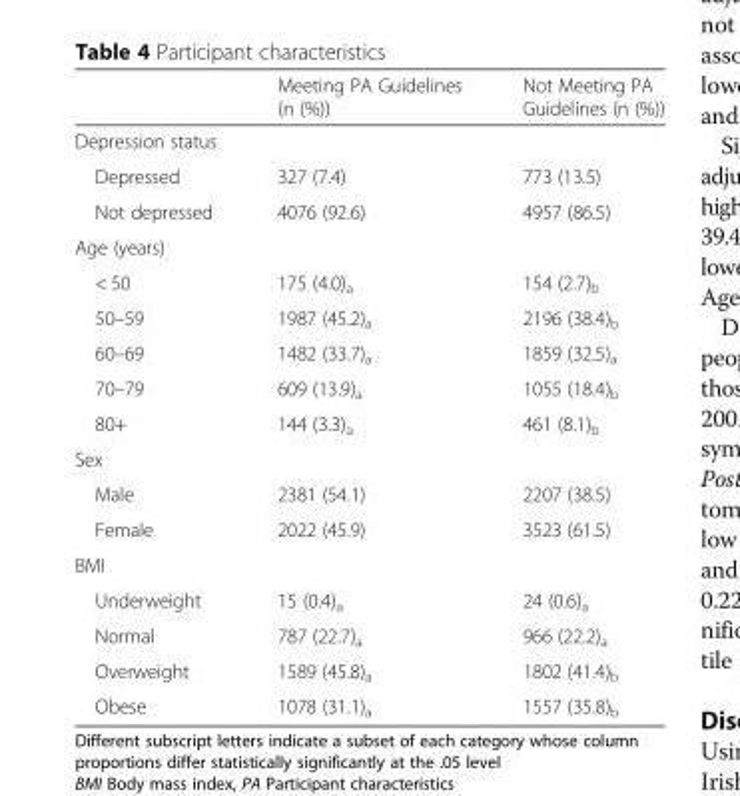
<table><thead><tr><td></td><td>Meeting PA Guidelines (n (%))</td><td>Not Meeting PA Guidelines (n (%))</td></tr></thead><tbody><tr><td colspan="3">Depression status</td></tr><tr><td>Depressed</td><td>327 (7.4)</td><td>773 (13.5)</td></tr><tr><td>Not depressed</td><td>4076 (92.6)</td><td>4957 (86.5)</td></tr><tr><td colspan="3">Age (years)</td></tr><tr><td>&lt; 50</td><td>175 (4.0)<sub>a</sub></td><td>154 (2.7)<sub>b</sub></td></tr><tr><td>50–59</td><td>1987 (45.2)<sub>a</sub></td><td>2196 (38.4)<sub>b</sub></td></tr><tr><td>60–69</td><td>1482 (33.7)<sub>a</sub></td><td>1859 (32.5)<sub>a</sub></td></tr><tr><td>70–79</td><td>609 (13.9)<sub>a</sub></td><td>1055 (18.4)<sub>b</sub></td></tr><tr><td>80+</td><td>144 (3.3)<sub>a</sub></td><td>461 (8.1)<sub>b</sub></td></tr><tr><td colspan="3">Sex</td></tr><tr><td>Male</td><td>2381 (54.1)</td><td>2207 (38.5)</td></tr><tr><td>Female</td><td>2022 (45.9)</td><td>3523 (61.5)</td></tr><tr><td colspan="3">BMI</td></tr><tr><td>Underweight</td><td>15 (0.4)<sub>a</sub></td><td>24 (0.6)<sub>a</sub></td></tr><tr><td>Normal</td><td>787 (22.7)<sub>a</sub></td><td>966 (22.2)<sub>a</sub></td></tr><tr><td>Overweight</td><td>1589 (45.8)<sub>a</sub></td><td>1802 (41.4)<sub>b</sub></td></tr><tr><td>Obese</td><td>1078 (31.1)<sub>a</sub></td><td>1557 (35.8)<sub>b</sub></td></tr></tbody></table>